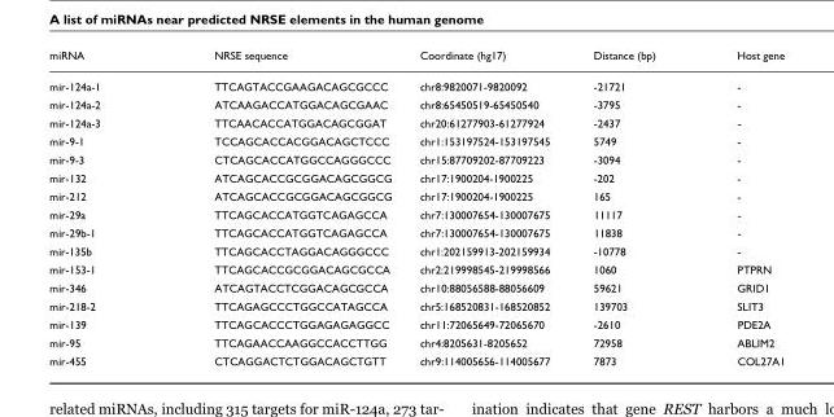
<table><thead><tr><td>miRNA</td><td>NRSE sequence</td><td>Coordinate (hg17)</td><td>Distance (bp)</td><td>Host gene</td></tr></thead><tbody><tr><td>mir-124a-1</td><td>TTCAGTACCGAAGACAGCGCCC</td><td>chr8:9820071-9820092</td><td>-21721</td><td>-</td></tr><tr><td>mir-124a-2</td><td>ATCAAGACCATGGACAGCGAAC</td><td>chr8:65450519-65450540</td><td>-3795</td><td>-</td></tr><tr><td>mir-124a-3</td><td>TTCAACACCATGGACAGCGGAT</td><td>chr20:61277903-61277924</td><td>-2437</td><td>-</td></tr><tr><td>mir-9-1</td><td>TCCAGCACCACGGACAGCTCCC</td><td>chr1:153197524-153197545</td><td>5749</td><td>-</td></tr><tr><td>mir-9-3</td><td>CTCAGCACCATGGCCAGGGCCC</td><td>chr15:87709202-87709223</td><td>-3094</td><td>-</td></tr><tr><td>mir-132</td><td>ATCAGCACCGCGGACAGCGGCG</td><td>chr17:1900204-1900225</td><td>-202</td><td>-</td></tr><tr><td>mir-212</td><td>ATCAGCACCGCGGACAGCGGCG</td><td>chr17:1900204-1900225</td><td>165</td><td>-</td></tr><tr><td>mir-29a</td><td>TTCAGCACCATGGTCAGAGCCA</td><td>chr7:130007654-130007675</td><td>11117</td><td>-</td></tr><tr><td>mir-29b-1</td><td>TTCAGCACCATGGTCAGAGCCA</td><td>chr7:130007654-130007675</td><td>11838</td><td>-</td></tr><tr><td>mir-135b</td><td>TTCAGCACCTAGGACAGGGCCC</td><td>chr1:202159913-202159934</td><td>-10778</td><td>-</td></tr><tr><td>mir-153-1</td><td>TTCAGCACCGCGGACAGCGCCA</td><td>chr2:219998545-219998566</td><td>1060</td><td>PTPRN</td></tr><tr><td>mir-346</td><td>ATCAGTACCTCGGACAGCGCCA</td><td>chr10:88056588-88056609</td><td>59621</td><td>GRID1</td></tr><tr><td>mir-218-2</td><td>TTCAGAGCCCTGGCCATAGCCA</td><td>chr5:168520831-168520852</td><td>139703</td><td>SLIT3</td></tr><tr><td>mir-139</td><td>TTCAGCACCCTGGAGAGAGGCC</td><td>chr11:72065649-72065670</td><td>-2610</td><td>PDE2A</td></tr><tr><td>mir-95</td><td>TTCAGAACCAAGGCCACCTTGG</td><td>chr4:8205631-8205652</td><td>72958</td><td>ABLIM2</td></tr><tr><td>mir-455</td><td>CTCAGGACTCTGGACAGCTGTT</td><td>chr9:114005656-114005677</td><td>7873</td><td>COL27A1</td></tr></tbody></table>